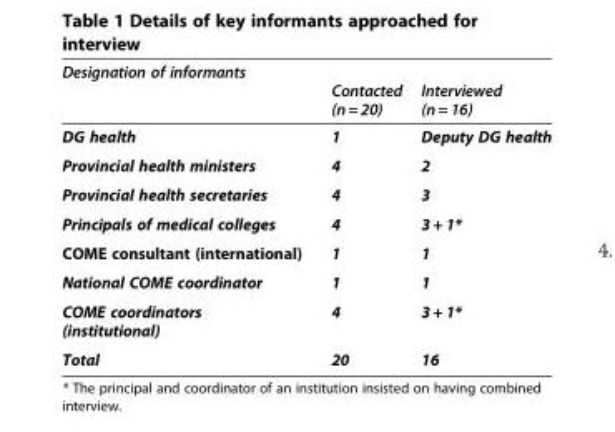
<table><thead><tr><td>Designation of informants</td><td>Contacted (n = 20)</td><td>Interviewed (n = 16)</td></tr></thead><tbody><tr><td>DG health</td><td>1</td><td>Deputy DG health</td></tr><tr><td>Provincial health ministers</td><td>4</td><td>2</td></tr><tr><td>Provincial health secretaries</td><td>4</td><td>3</td></tr><tr><td>Principals of medical colleges</td><td>4</td><td>3 + 1*</td></tr><tr><td>COME consultant (international)</td><td>1</td><td>1</td></tr><tr><td>National COME coordinator</td><td>1</td><td>1</td></tr><tr><td>COME coordinators (institutional)</td><td>4</td><td>3 + 1*</td></tr><tr><td>Total</td><td>20</td><td>16</td></tr></tbody></table>